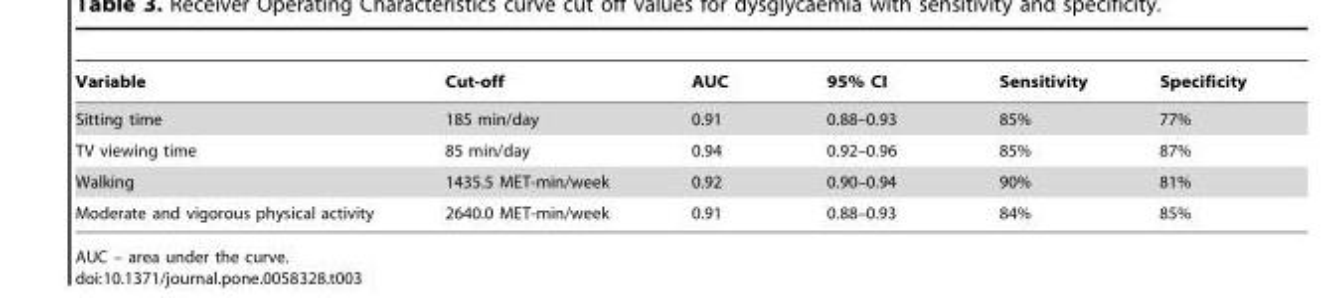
<table><thead><tr><td>Variable</td><td>Cut-off</td><td>AUC</td><td>95% CI</td><td>Sensitivity</td><td>Specificity</td></tr></thead><tbody><tr><td>Sitting time</td><td>185 min/day</td><td>0.91</td><td>0.88–0.93</td><td>85%</td><td>77%</td></tr><tr><td>TV viewing time</td><td>85 min/day</td><td>0.94</td><td>0.92–0.96</td><td>85%</td><td>87%</td></tr><tr><td>Walking</td><td>1435.5 MET-min/week</td><td>0.92</td><td>0.90–0.94</td><td>90%</td><td>81%</td></tr><tr><td>Moderate and vigorous physical activity</td><td>2640.0 MET-min/week</td><td>0.91</td><td>0.88–0.93</td><td>84%</td><td>85%</td></tr></tbody></table>